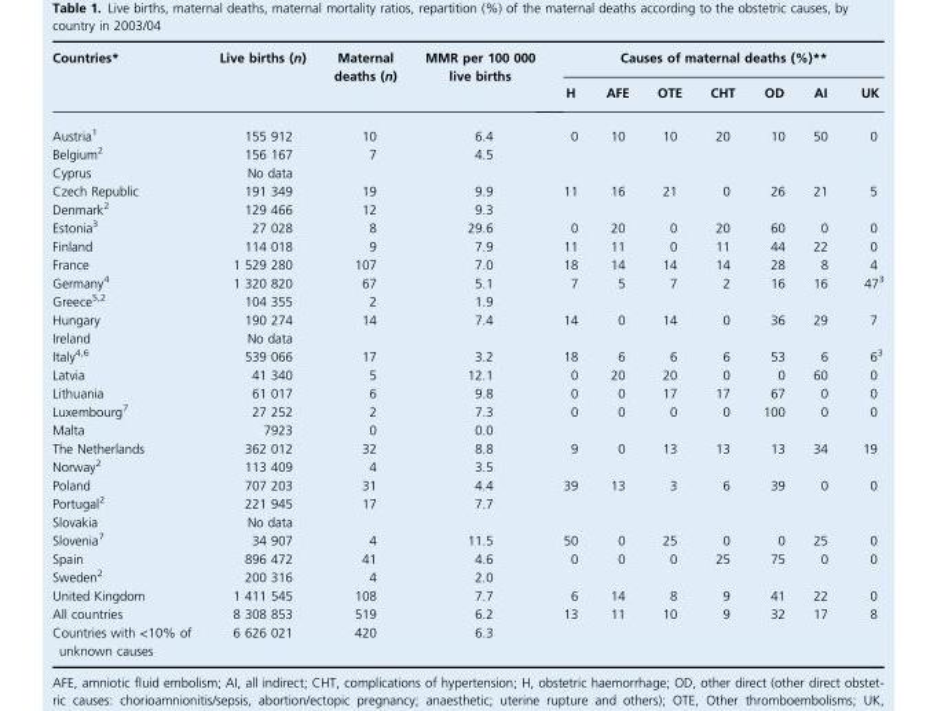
<table><thead><tr><td rowspan="2">Countries*</td><td rowspan="2">Live births (n)</td><td rowspan="2">Maternal deaths (n)</td><td rowspan="2">MMR per 100 000 live births</td><td colspan="7">Causes of maternal deaths (%)**</td></tr><tr><td>H</td><td>AFE</td><td>OTE</td><td>CHT</td><td>OD</td><td>AI</td><td>UK</td></tr></thead><tbody><tr><td>Austria<sup>1</sup></td><td>155 912</td><td>10</td><td>6.4</td><td>0</td><td>10</td><td>10</td><td>20</td><td>10</td><td>50</td><td>0</td></tr><tr><td>Belgium<sup>2</sup></td><td>156 167</td><td>7</td><td>4.5</td><td></td><td></td><td></td><td></td><td></td><td></td><td></td></tr><tr><td>Cyprus</td><td>No data</td><td></td><td></td><td></td><td></td><td></td><td></td><td></td><td></td><td></td></tr><tr><td>Czech Republic</td><td>191 349</td><td>19</td><td>9.9</td><td>11</td><td>16</td><td>21</td><td>0</td><td>26</td><td>21</td><td>5</td></tr><tr><td>Denmark<sup>2</sup></td><td>129 466</td><td>12</td><td>9.3</td><td></td><td></td><td></td><td></td><td></td><td></td><td></td></tr><tr><td>Estonia<sup>3</sup></td><td>27 028</td><td>8</td><td>29.6</td><td>0</td><td>20</td><td>0</td><td>20</td><td>60</td><td>0</td><td>0</td></tr><tr><td>Finland</td><td>114 018</td><td>9</td><td>7.9</td><td>11</td><td>11</td><td>0</td><td>11</td><td>44</td><td>22</td><td>0</td></tr><tr><td>France</td><td>1 529 280</td><td>107</td><td>7.0</td><td>18</td><td>14</td><td>14</td><td>14</td><td>28</td><td>8</td><td>4</td></tr><tr><td>Germany<sup>4</sup></td><td>1 320 820</td><td>67</td><td>5.1</td><td>7</td><td>5</td><td>7</td><td>2</td><td>16</td><td>16</td><td>47<sup>3</sup></td></tr><tr><td>Greece<sup>5,2</sup></td><td>104 355</td><td>2</td><td>1.9</td><td></td><td></td><td></td><td></td><td></td><td></td><td></td></tr><tr><td>Hungary</td><td>190 274</td><td>14</td><td>7.4</td><td>14</td><td>0</td><td>14</td><td>0</td><td>36</td><td>29</td><td>7</td></tr><tr><td>Ireland</td><td>No data</td><td></td><td></td><td></td><td></td><td></td><td></td><td></td><td></td><td></td></tr><tr><td>Italy<sup>4,6</sup></td><td>539 066</td><td>17</td><td>3.2</td><td>18</td><td>6</td><td>6</td><td>6</td><td>53</td><td>6</td><td>6<sup>3</sup></td></tr><tr><td>Latvia</td><td>41 340</td><td>5</td><td>12.1</td><td>0</td><td>20</td><td>20</td><td>0</td><td>0</td><td>60</td><td>0</td></tr><tr><td>Lithuania</td><td>61 017</td><td>6</td><td>9.8</td><td>0</td><td>0</td><td>17</td><td>17</td><td>67</td><td>0</td><td>0</td></tr><tr><td>Luxembourg<sup>7</sup></td><td>27 252</td><td>2</td><td>7.3</td><td>0</td><td>0</td><td>0</td><td>0</td><td>100</td><td>0</td><td>0</td></tr><tr><td>Malta</td><td>7923</td><td>0</td><td>0.0</td><td></td><td></td><td></td><td></td><td></td><td></td><td></td></tr><tr><td>The Netherlands</td><td>362 012</td><td>32</td><td>8.8</td><td>9</td><td>0</td><td>13</td><td>13</td><td>13</td><td>34</td><td>19</td></tr><tr><td>Norway<sup>2</sup></td><td>113 409</td><td>4</td><td>3.5</td><td></td><td></td><td></td><td></td><td></td><td></td><td></td></tr><tr><td>Poland</td><td>707 203</td><td>31</td><td>4.4</td><td>39</td><td>13</td><td>3</td><td>6</td><td>39</td><td>0</td><td>0</td></tr><tr><td>Portugal<sup>2</sup></td><td>221 945</td><td>17</td><td>7.7</td><td></td><td></td><td></td><td></td><td></td><td></td><td></td></tr><tr><td>Slovakia</td><td>No data</td><td></td><td></td><td></td><td></td><td></td><td></td><td></td><td></td><td></td></tr><tr><td>Slovenia<sup>7</sup></td><td>34 907</td><td>4</td><td>11.5</td><td>50</td><td>0</td><td>25</td><td>0</td><td>0</td><td>25</td><td>0</td></tr><tr><td>Spain</td><td>896 472</td><td>41</td><td>4.6</td><td>0</td><td>0</td><td>0</td><td>25</td><td>75</td><td>0</td><td>0</td></tr><tr><td>Sweden<sup>2</sup></td><td>200 316</td><td>4</td><td>2.0</td><td></td><td></td><td></td><td></td><td></td><td></td><td></td></tr><tr><td>United Kingdom</td><td>1 411 545</td><td>108</td><td>7.7</td><td>6</td><td>14</td><td>8</td><td>9</td><td>41</td><td>22</td><td>0</td></tr><tr><td>All countries</td><td>8 308 853</td><td>519</td><td>6.2</td><td>13</td><td>11</td><td>10</td><td>9</td><td>32</td><td>17</td><td>8</td></tr><tr><td>Countries with &lt;10% of unknown causes</td><td>6 626 021</td><td>420</td><td>6.3</td><td></td><td></td><td></td><td></td><td></td><td></td><td></td></tr></tbody></table>